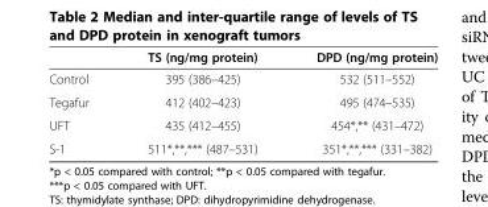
<table><thead><tr><td></td><td>TS (ng/mg protein)</td><td>DPD (ng/mg protein)</td></tr></thead><tbody><tr><td>Control</td><td>395 (386–425)</td><td>532 (511–552)</td></tr><tr><td>Tegafur</td><td>412 (402–423)</td><td>495 (474–535)</td></tr><tr><td>UFT</td><td>435 (412–455)</td><td>454*,** (431–472)</td></tr><tr><td>S-1</td><td>511*,**,*** (487–531)</td><td>351*,**,*** (331–382)</td></tr></tbody></table>